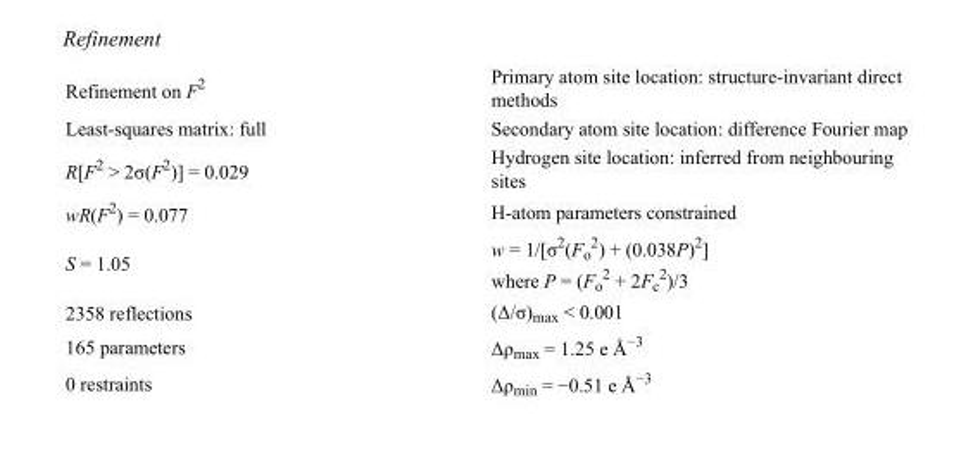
<table><tbody><tr><td>Refinement on F<sup>2</sup></td><td>Primary atom site location: structure-invariant direct methods</td></tr><tr><td>Least-squares matrix: full</td><td>Secondary atom site location: difference Fourier map</td></tr><tr><td>R[F<sup>2</sup> &gt; 2σ(F<sup>2</sup>)] = 0.029</td><td>Hydrogen site location: inferred from neighbouring sites</td></tr><tr><td>wR(F<sup>2</sup>) = 0.077</td><td>H-atom parameters constrained</td></tr><tr><td>S = 1.05</td><td>w = 1/[σ<sup>2</sup>(F<sub>o</sub> <sup>2</sup>) + (0.038P)<sup>2</sup>] where P = (F<sub>o</sub> <sup>2</sup> + 2F<sub>c</sub> <sup>2</sup>)/3</td></tr><tr><td>2358 reflections</td><td>(Δ/σ)<sub>max</sub> &lt; 0.001</td></tr><tr><td>165 parameters</td><td>Δρ<sub>max</sub> = 1.25 e Å<sup>−3</sup></td></tr><tr><td>0 restraints</td><td>Δρ<sub>min</sub> = −0.51 e Å<sup>−3</sup></td></tr></tbody></table>